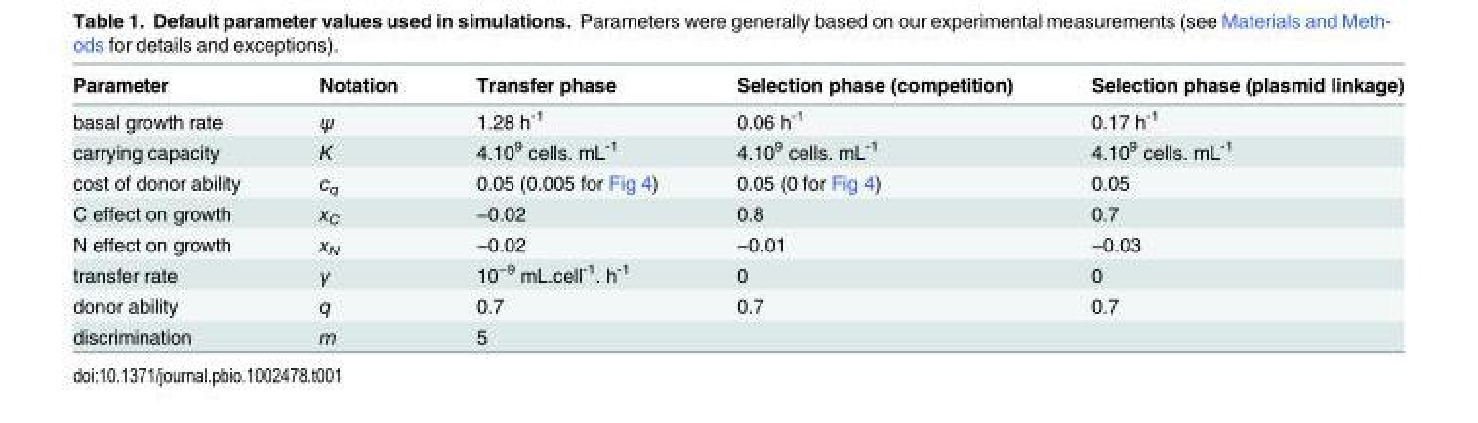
<table><thead><tr><td>Parameter</td><td>Notation</td><td>Transfer phase</td><td>Selection phase (competition)</td><td>Selection phase (plasmid linkage)</td></tr></thead><tbody><tr><td>basal growth rate</td><td>ψ</td><td>1.28 h<sup>-1</sup></td><td>0.06 h<sup>-1</sup></td><td>0.17 h<sup>-1</sup></td></tr><tr><td>carrying capacity</td><td>K</td><td>4.10<sup>9</sup> cells. mL<sup>-1</sup></td><td>4.10<sup>9</sup> cells. mL<sup>-1</sup></td><td>4.10<sup>9</sup> cells. mL<sup>-1</sup></td></tr><tr><td>cost of donor ability</td><td>c<sub>q</sub></td><td>0.05 (0.005 for Fig 4)</td><td>0.05 (0 for Fig 4)</td><td>0.05</td></tr><tr><td>C effect on growth</td><td>x<sub>C</sub></td><td>−0.02</td><td>0.8</td><td>0.7</td></tr><tr><td>N effect on growth</td><td>x<sub>N</sub></td><td>−0.02</td><td>−0.01</td><td>−0.03</td></tr><tr><td>transfer rate</td><td>γ</td><td>10<sup>−9</sup> mL.cell<sup>-1</sup>. h<sup>-1</sup></td><td>0</td><td>0</td></tr><tr><td>donor ability</td><td>q</td><td>0.7</td><td>0.7</td><td>0.7</td></tr><tr><td>discrimination</td><td>m</td><td>5</td><td></td><td></td></tr></tbody></table>